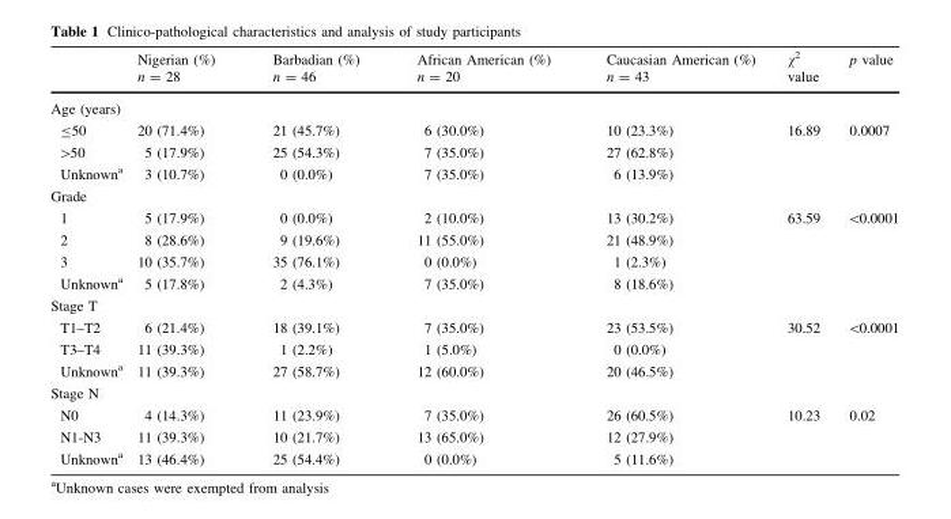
<table><thead><tr><td></td><td>Nigerian (%) n = 28</td><td>Barbadian (%) n = 46</td><td>African American (%) n = 20</td><td>Caucasian American (%) n = 43</td><td>χ<sup>2</sup> value</td><td>p value</td></tr></thead><tbody><tr><td colspan="7">Age (years)</td></tr><tr><td>≤50</td><td>20 (71.4%)</td><td>21 (45.7%)</td><td>6 (30.0%)</td><td>10 (23.3%)</td><td>16.89</td><td>0.0007</td></tr><tr><td>&gt;50</td><td>5 (17.9%)</td><td>25 (54.3%)</td><td>7 (35.0%)</td><td>27 (62.8%)</td><td></td><td></td></tr><tr><td>Unknown<sup>a</sup></td><td>3 (10.7%)</td><td>0 (0.0%)</td><td>7 (35.0%)</td><td>6 (13.9%)</td><td></td><td></td></tr><tr><td colspan="7">Grade</td></tr><tr><td>1</td><td>5 (17.9%)</td><td>0 (0.0%)</td><td>2 (10.0%)</td><td>13 (30.2%)</td><td>63.59</td><td>&lt;0.0001</td></tr><tr><td>2</td><td>8 (28.6%)</td><td>9 (19.6%)</td><td>11 (55.0%)</td><td>21 (48.9%)</td><td></td><td></td></tr><tr><td>3</td><td>10 (35.7%)</td><td>35 (76.1%)</td><td>0 (0.0%)</td><td>1 (2.3%)</td><td></td><td></td></tr><tr><td>Unknown<sup>a</sup></td><td>5 (17.8%)</td><td>2 (4.3%)</td><td>7 (35.0%)</td><td>8 (18.6%)</td><td></td><td></td></tr><tr><td colspan="7">Stage T</td></tr><tr><td>T1–T2</td><td>6 (21.4%)</td><td>18 (39.1%)</td><td>7 (35.0%)</td><td>23 (53.5%)</td><td>30.52</td><td>&lt;0.0001</td></tr><tr><td>T3–T4</td><td>11 (39.3%)</td><td>1 (2.2%)</td><td>1 (5.0%)</td><td>0 (0.0%)</td><td></td><td></td></tr><tr><td>Unknown<sup>a</sup></td><td>11 (39.3%)</td><td>27 (58.7%)</td><td>12 (60.0%)</td><td>20 (46.5%)</td><td></td><td></td></tr><tr><td colspan="7">Stage N</td></tr><tr><td>N0</td><td>4 (14.3%)</td><td>11 (23.9%)</td><td>7 (35.0%)</td><td>26 (60.5%)</td><td>10.23</td><td>0.02</td></tr><tr><td>N1-N3</td><td>11 (39.3%)</td><td>10 (21.7%)</td><td>13 (65.0%)</td><td>12 (27.9%)</td><td></td><td></td></tr><tr><td>Unknown<sup>a</sup></td><td>13 (46.4%)</td><td>25 (54.4%)</td><td>0 (0.0%)</td><td>5 (11.6%)</td><td></td><td></td></tr></tbody></table>